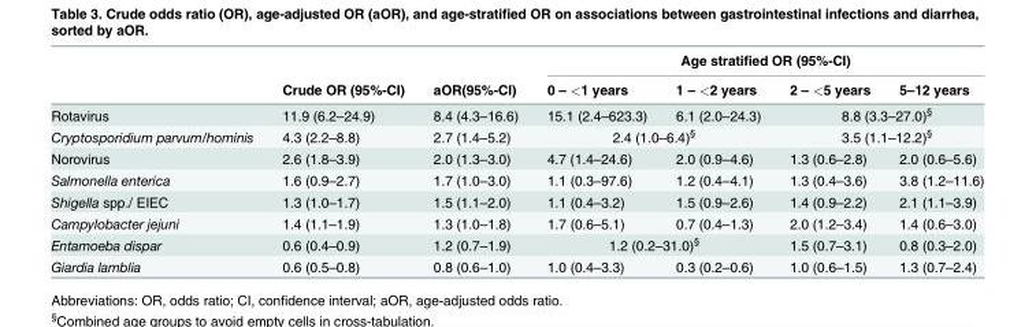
<table><thead><tr><td rowspan="2"></td><td rowspan="2">Crude OR (95%-CI)</td><td rowspan="2">aOR(95%-CI)</td><td colspan="4">Age stratified OR (95%-CI)</td></tr><tr><td>0 – &lt;1 years</td><td>1 – &lt;2 years</td><td>2 – &lt;5 years</td><td>5–12 years</td></tr></thead><tbody><tr><td>Rotavirus</td><td>11.9 (6.2–24.9)</td><td>8.4 (4.3–16.6)</td><td>15.1 (2.4–623.3)</td><td>6.1 (2.0–24.3)</td><td colspan="2">8.8 (3.3–27.0)<sup>§</sup></td></tr><tr><td>Cryptosporidium parvum/hominis</td><td>4.3 (2.2–8.8)</td><td>2.7 (1.4–5.2)</td><td colspan="2">2.4 (1.0–6.4)<sup>§</sup></td><td colspan="2">3.5 (1.1–12.2)<sup>§</sup></td></tr><tr><td>Norovirus</td><td>2.6 (1.8–3.9)</td><td>2.0 (1.3–3.0)</td><td>4.7 (1.4–24.6)</td><td>2.0 (0.9–4.6)</td><td>1.3 (0.6–2.8)</td><td>2.0 (0.6–5.6)</td></tr><tr><td>Salmonella enterica</td><td>1.6 (0.9–2.7)</td><td>1.7 (1.0–3.0)</td><td>1.1 (0.3–97.6)</td><td>1.2 (0.4–4.1)</td><td>1.3 (0.4–3.6)</td><td>3.8 (1.2–11.6)</td></tr><tr><td>Shigella spp./ EIEC</td><td>1.3 (1.0–1.7)</td><td>1.5 (1.1–2.0)</td><td>1.1 (0.4–3.2)</td><td>1.5 (0.9–2.6)</td><td>1.4 (0.9–2.2)</td><td>2.1 (1.1–3.9)</td></tr><tr><td>Campylobacter jejuni</td><td>1.4 (1.1–1.9)</td><td>1.3 (1.0–1.8)</td><td>1.7 (0.6–5.1)</td><td>0.7 (0.4–1.3)</td><td>2.0 (1.2–3.4)</td><td>1.4 (0.6–3.0)</td></tr><tr><td>Entamoeba dispar</td><td>0.6 (0.4–0.9)</td><td>1.2 (0.7–1.9)</td><td colspan="2">1.2 (0.2–31.0)<sup>§</sup></td><td>1.5 (0.7–3.1)</td><td>0.8 (0.3–2.0)</td></tr><tr><td>Giardia lamblia</td><td>0.6 (0.5–0.8)</td><td>0.8 (0.6–1.0)</td><td>1.0 (0.4–3.3)</td><td>0.3 (0.2–0.6)</td><td>1.0 (0.6–1.5)</td><td>1.3 (0.7–2.4)</td></tr></tbody></table>